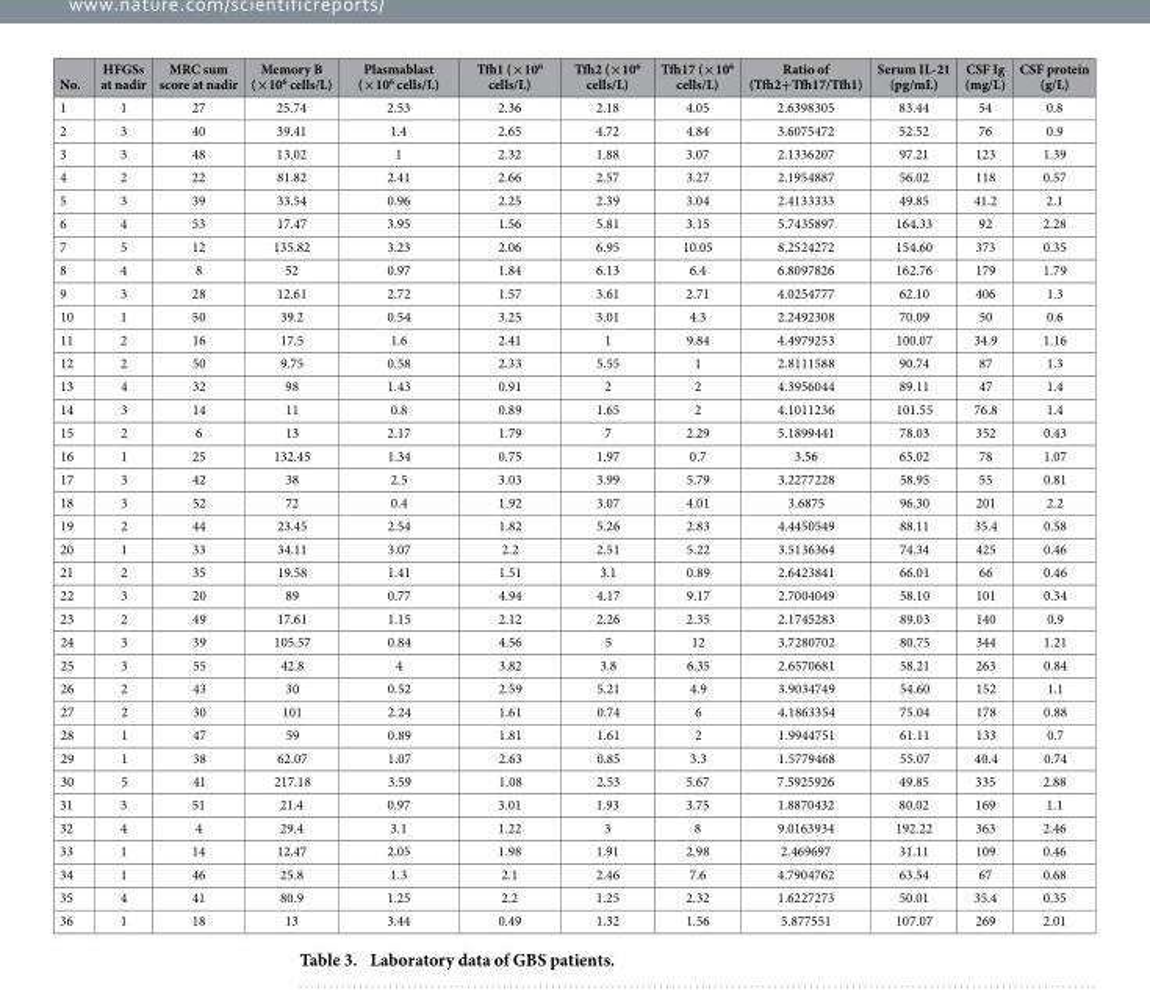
<table><thead><tr><td>No.</td><td>HFGSs at nadir</td><td>MRC sum score at nadir</td><td>Memory B (×10<sup>6</sup> cells/L)</td><td>Plasmablast (×10<sup>6</sup> cells/L)</td><td>Tfh1 (×10<sup>6</sup> cells/L)</td><td>Tfh2 (×10<sup>6</sup> cells/L)</td><td>Tfh17 (×10<sup>6</sup> cells/L)</td><td>Ratio of (Tfh2+Tfh17/Tfh1)</td><td>Serum IL-21 (pg/mL)</td><td>CSF Ig (mg/L)</td><td>CSF protein (g/L)</td></tr></thead><tbody><tr><td>1</td><td>1</td><td>27</td><td>25.74</td><td>2.53</td><td>2.36</td><td>2.18</td><td>4.05</td><td>2.6398305</td><td>83.44</td><td>54</td><td>0.8</td></tr><tr><td>2</td><td>3</td><td>40</td><td>39.41</td><td>1.4</td><td>2.65</td><td>4.72</td><td>4.84</td><td>3.6075472</td><td>52.52</td><td>76</td><td>0.9</td></tr><tr><td>3</td><td>3</td><td>48</td><td>13.02</td><td>1</td><td>2.32</td><td>1.88</td><td>3.07</td><td>2.1336207</td><td>97.21</td><td>123</td><td>1.39</td></tr><tr><td>4</td><td>2</td><td>22</td><td>81.82</td><td>2.41</td><td>2.66</td><td>2.57</td><td>3.27</td><td>2.1954887</td><td>56.02</td><td>118</td><td>0.57</td></tr><tr><td>5</td><td>3</td><td>39</td><td>33.54</td><td>0.96</td><td>2.25</td><td>2.39</td><td>3.04</td><td>2.4133333</td><td>49.85</td><td>41.2</td><td>2.1</td></tr><tr><td>6</td><td>4</td><td>53</td><td>17.47</td><td>3.95</td><td>1.56</td><td>5.81</td><td>3.15</td><td>5.7435897</td><td>164.33</td><td>92</td><td>2.28</td></tr><tr><td>7</td><td>5</td><td>12</td><td>135.82</td><td>3.23</td><td>2.06</td><td>6.95</td><td>10.05</td><td>8.2524272</td><td>154.60</td><td>373</td><td>0.35</td></tr><tr><td>8</td><td>4</td><td>8</td><td>52</td><td>0.97</td><td>1.84</td><td>6.13</td><td>6.4</td><td>6.8097826</td><td>162.76</td><td>179</td><td>1.79</td></tr><tr><td>9</td><td>3</td><td>28</td><td>12.61</td><td>2.72</td><td>1.57</td><td>3.61</td><td>2.71</td><td>4.0254777</td><td>62.10</td><td>406</td><td>1.3</td></tr><tr><td>10</td><td>1</td><td>50</td><td>39.2</td><td>0.54</td><td>3.25</td><td>3.01</td><td>4.3</td><td>2.2492308</td><td>70.09</td><td>50</td><td>0.6</td></tr><tr><td>11</td><td>2</td><td>16</td><td>17.5</td><td>1.6</td><td>2.41</td><td>1</td><td>9.84</td><td>4.4979253</td><td>100.07</td><td>34.9</td><td>1.16</td></tr><tr><td>12</td><td>2</td><td>50</td><td>9.75</td><td>0.58</td><td>2.33</td><td>5.55</td><td>1</td><td>2.8111588</td><td>90.74</td><td>87</td><td>1.3</td></tr><tr><td>13</td><td>4</td><td>32</td><td>98</td><td>1.43</td><td>0.91</td><td>2</td><td>2</td><td>4.3956044</td><td>89.11</td><td>47</td><td>1.4</td></tr><tr><td>14</td><td>3</td><td>14</td><td>11</td><td>0.8</td><td>0.89</td><td>1.65</td><td>2</td><td>4.1011236</td><td>101.55</td><td>76.8</td><td>1.4</td></tr><tr><td>15</td><td>2</td><td>6</td><td>13</td><td>2.17</td><td>1.79</td><td>7</td><td>2.29</td><td>5.1899441</td><td>78.03</td><td>352</td><td>0.43</td></tr><tr><td>16</td><td>1</td><td>25</td><td>132.45</td><td>1.34</td><td>0.75</td><td>1.97</td><td>0.7</td><td>3.56</td><td>65.02</td><td>78</td><td>1.07</td></tr><tr><td>17</td><td>3</td><td>42</td><td>38</td><td>2.5</td><td>3.03</td><td>3.99</td><td>5.79</td><td>3.2277228</td><td>58.95</td><td>55</td><td>0.81</td></tr><tr><td>18</td><td>3</td><td>52</td><td>72</td><td>0.4</td><td>1.92</td><td>3.07</td><td>4.01</td><td>3.6875</td><td>96.30</td><td>201</td><td>2.2</td></tr><tr><td>19</td><td>2</td><td>44</td><td>23.45</td><td>2.54</td><td>1.82</td><td>5.26</td><td>2.83</td><td>4.4450549</td><td>88.11</td><td>35.4</td><td>0.58</td></tr><tr><td>20</td><td>1</td><td>33</td><td>34.11</td><td>3.07</td><td>2.2</td><td>2.51</td><td>5.22</td><td>3.5136364</td><td>74.34</td><td>425</td><td>0.46</td></tr><tr><td>21</td><td>2</td><td>35</td><td>19.58</td><td>1.41</td><td>1.51</td><td>3.1</td><td>0.89</td><td>2.6423841</td><td>66.01</td><td>66</td><td>0.46</td></tr><tr><td>22</td><td>3</td><td>20</td><td>89</td><td>0.77</td><td>4.94</td><td>4.17</td><td>9.17</td><td>2.7004049</td><td>58.10</td><td>101</td><td>0.34</td></tr><tr><td>23</td><td>2</td><td>49</td><td>17.61</td><td>1.15</td><td>2.12</td><td>2.26</td><td>2.35</td><td>2.1745283</td><td>89.03</td><td>140</td><td>0.9</td></tr><tr><td>24</td><td>3</td><td>39</td><td>105.57</td><td>0.84</td><td>4.56</td><td>5</td><td>12</td><td>3.7280702</td><td>80.75</td><td>344</td><td>1.21</td></tr><tr><td>25</td><td>3</td><td>55</td><td>42.8</td><td>4</td><td>3.82</td><td>3.8</td><td>6.35</td><td>2.6570681</td><td>58.21</td><td>263</td><td>0.84</td></tr><tr><td>26</td><td>2</td><td>43</td><td>30</td><td>0.52</td><td>2.59</td><td>5.21</td><td>4.9</td><td>3.9034749</td><td>54.60</td><td>152</td><td>1.1</td></tr><tr><td>27</td><td>2</td><td>30</td><td>101</td><td>2.24</td><td>1.61</td><td>0.74</td><td>6</td><td>4.1863354</td><td>75.04</td><td>178</td><td>0.88</td></tr><tr><td>28</td><td>1</td><td>47</td><td>59</td><td>0.89</td><td>1.81</td><td>1.61</td><td>2</td><td>1.9944751</td><td>61.11</td><td>133</td><td>0.7</td></tr><tr><td>29</td><td>1</td><td>38</td><td>62.07</td><td>1.07</td><td>2.63</td><td>0.85</td><td>3.3</td><td>1.5779468</td><td>55.07</td><td>40.4</td><td>0.74</td></tr><tr><td>30</td><td>5</td><td>41</td><td>217.18</td><td>3.59</td><td>1.08</td><td>2.53</td><td>5.67</td><td>7.5925926</td><td>49.85</td><td>335</td><td>2.88</td></tr><tr><td>31</td><td>3</td><td>51</td><td>21.4</td><td>0.97</td><td>3.01</td><td>1.93</td><td>3.75</td><td>1.8870432</td><td>80.02</td><td>169</td><td>1.1</td></tr><tr><td>32</td><td>4</td><td>4</td><td>29.4</td><td>3.1</td><td>1.22</td><td>3</td><td>8</td><td>9.0163934</td><td>192.22</td><td>363</td><td>2.46</td></tr><tr><td>33</td><td>1</td><td>14</td><td>12.47</td><td>2.05</td><td>1.98</td><td>1.91</td><td>2.98</td><td>2.469697</td><td>31.11</td><td>109</td><td>0.46</td></tr><tr><td>34</td><td>1</td><td>46</td><td>25.8</td><td>1.3</td><td>2.1</td><td>2.46</td><td>7.6</td><td>4.7904762</td><td>63.54</td><td>67</td><td>0.68</td></tr><tr><td>35</td><td>4</td><td>41</td><td>80.9</td><td>1.25</td><td>2.2</td><td>1.25</td><td>2.32</td><td>1.6227273</td><td>50.01</td><td>35.4</td><td>0.35</td></tr><tr><td>36</td><td>1</td><td>18</td><td>13</td><td>3.44</td><td>0.49</td><td>1.32</td><td>1.56</td><td>5.877551</td><td>107.07</td><td>269</td><td>2.01</td></tr></tbody></table>